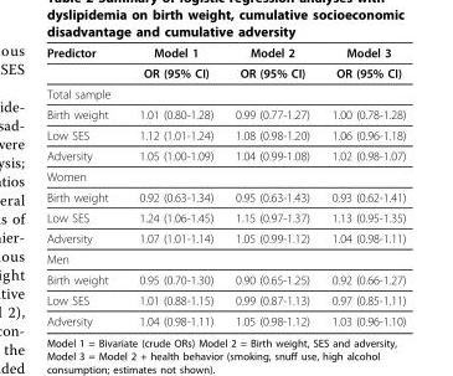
<table><thead><tr><td>Predictor</td><td>Model 1</td><td>Model 2</td><td>Model 3</td></tr></thead><tbody><tr><td></td><td>OR (95% CI)</td><td>OR (95% CI)</td><td>OR (95% CI)</td></tr><tr><td colspan="4">Total sample</td></tr><tr><td>Birth weight</td><td>1.01 (0.80-1.28)</td><td>0.99 (0.77-1.27)</td><td>1.00 (0.78-1.28)</td></tr><tr><td>Low SES</td><td>1.12 (1.01-1.24)</td><td>1.08 (0.98-1.20)</td><td>1.06 (0.96-1.18)</td></tr><tr><td>Adversity</td><td>1.05 (1.00-1.09)</td><td>1.04 (0.99-1.08)</td><td>1.02 (0.98-1.07)</td></tr><tr><td colspan="4">Women</td></tr><tr><td>Birth weight</td><td>0.92 (0.63-1.34)</td><td>0.95 (0.63-1.43)</td><td>0.93 (0.62-1.41)</td></tr><tr><td>Low SES</td><td>1.24 (1.06-1.45)</td><td>1.15 (0.97-1.37)</td><td>1.13 (0.95-1.35)</td></tr><tr><td>Adversity</td><td>1.07 (1.01-1.14)</td><td>1.05 (0.99-1.12)</td><td>1.04 (0.98-1.11)</td></tr><tr><td colspan="4">Men</td></tr><tr><td>Birth weight</td><td>0.95 (0.70-1.30)</td><td>0.90 (0.65-1.25)</td><td>0.92 (0.66-1.27)</td></tr><tr><td>Low SES</td><td>1.01 (0.88-1.15)</td><td>0.99 (0.87-1.13)</td><td>0.97 (0.85-1.11)</td></tr><tr><td>Adversity</td><td>1.04 (0.98-1.11)</td><td>1.05 (0.98-1.12)</td><td>1.03 (0.96-1.10)</td></tr></tbody></table>